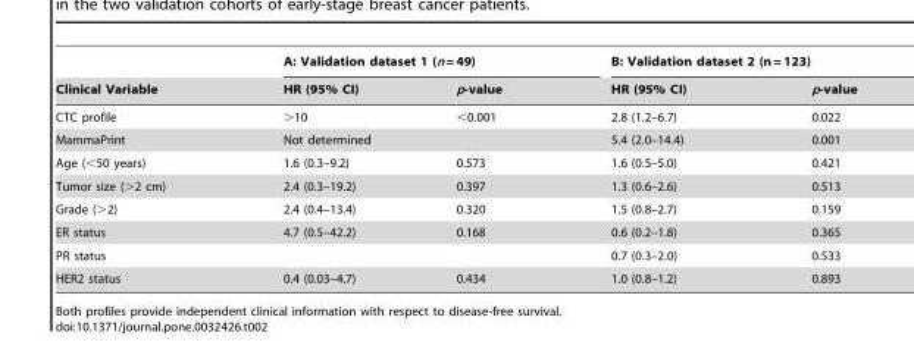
<table><thead><tr><td rowspan="2">Clinical Variable</td><td colspan="2">A: Validation dataset 1 (n = 49)</td><td colspan="2">B: Validation dataset 2 (n = 123)</td></tr><tr><td>HR (95% CI)</td><td>p-value</td><td>HR (95% CI)</td><td>p-value</td></tr></thead><tbody><tr><td>CTC profile</td><td>&gt;10</td><td>&lt;0.001</td><td>2.8 (1.2–6.7)</td><td>0.022</td></tr><tr><td>MammaPrint</td><td colspan="2">Not determined</td><td>5.4 (2.0–14.4)</td><td>0.001</td></tr><tr><td>Age (&lt;50 years)</td><td>1.6 (0.3–9.2)</td><td>0.573</td><td>1.6 (0.5–5.0)</td><td>0.421</td></tr><tr><td>Tumor size (&gt;2 cm)</td><td>2.4 (0.3–19.2)</td><td>0.397</td><td>1.3 (0.6–2.6)</td><td>0.513</td></tr><tr><td>Grade (&gt;2)</td><td>2.4 (0.4–13.4)</td><td>0.320</td><td>1.5 (0.8–2.7)</td><td>0.159</td></tr><tr><td>ER status</td><td>4.7 (0.5–42.2)</td><td>0.168</td><td>0.6 (0.2–1.8)</td><td>0.365</td></tr><tr><td>PR status</td><td></td><td></td><td>0.7 (0.3–2.0)</td><td>0.533</td></tr><tr><td>HER2 status</td><td>0.4 (0.03–4.7)</td><td>0.434</td><td>1.0 (0.8–1.2)</td><td>0.893</td></tr></tbody></table>